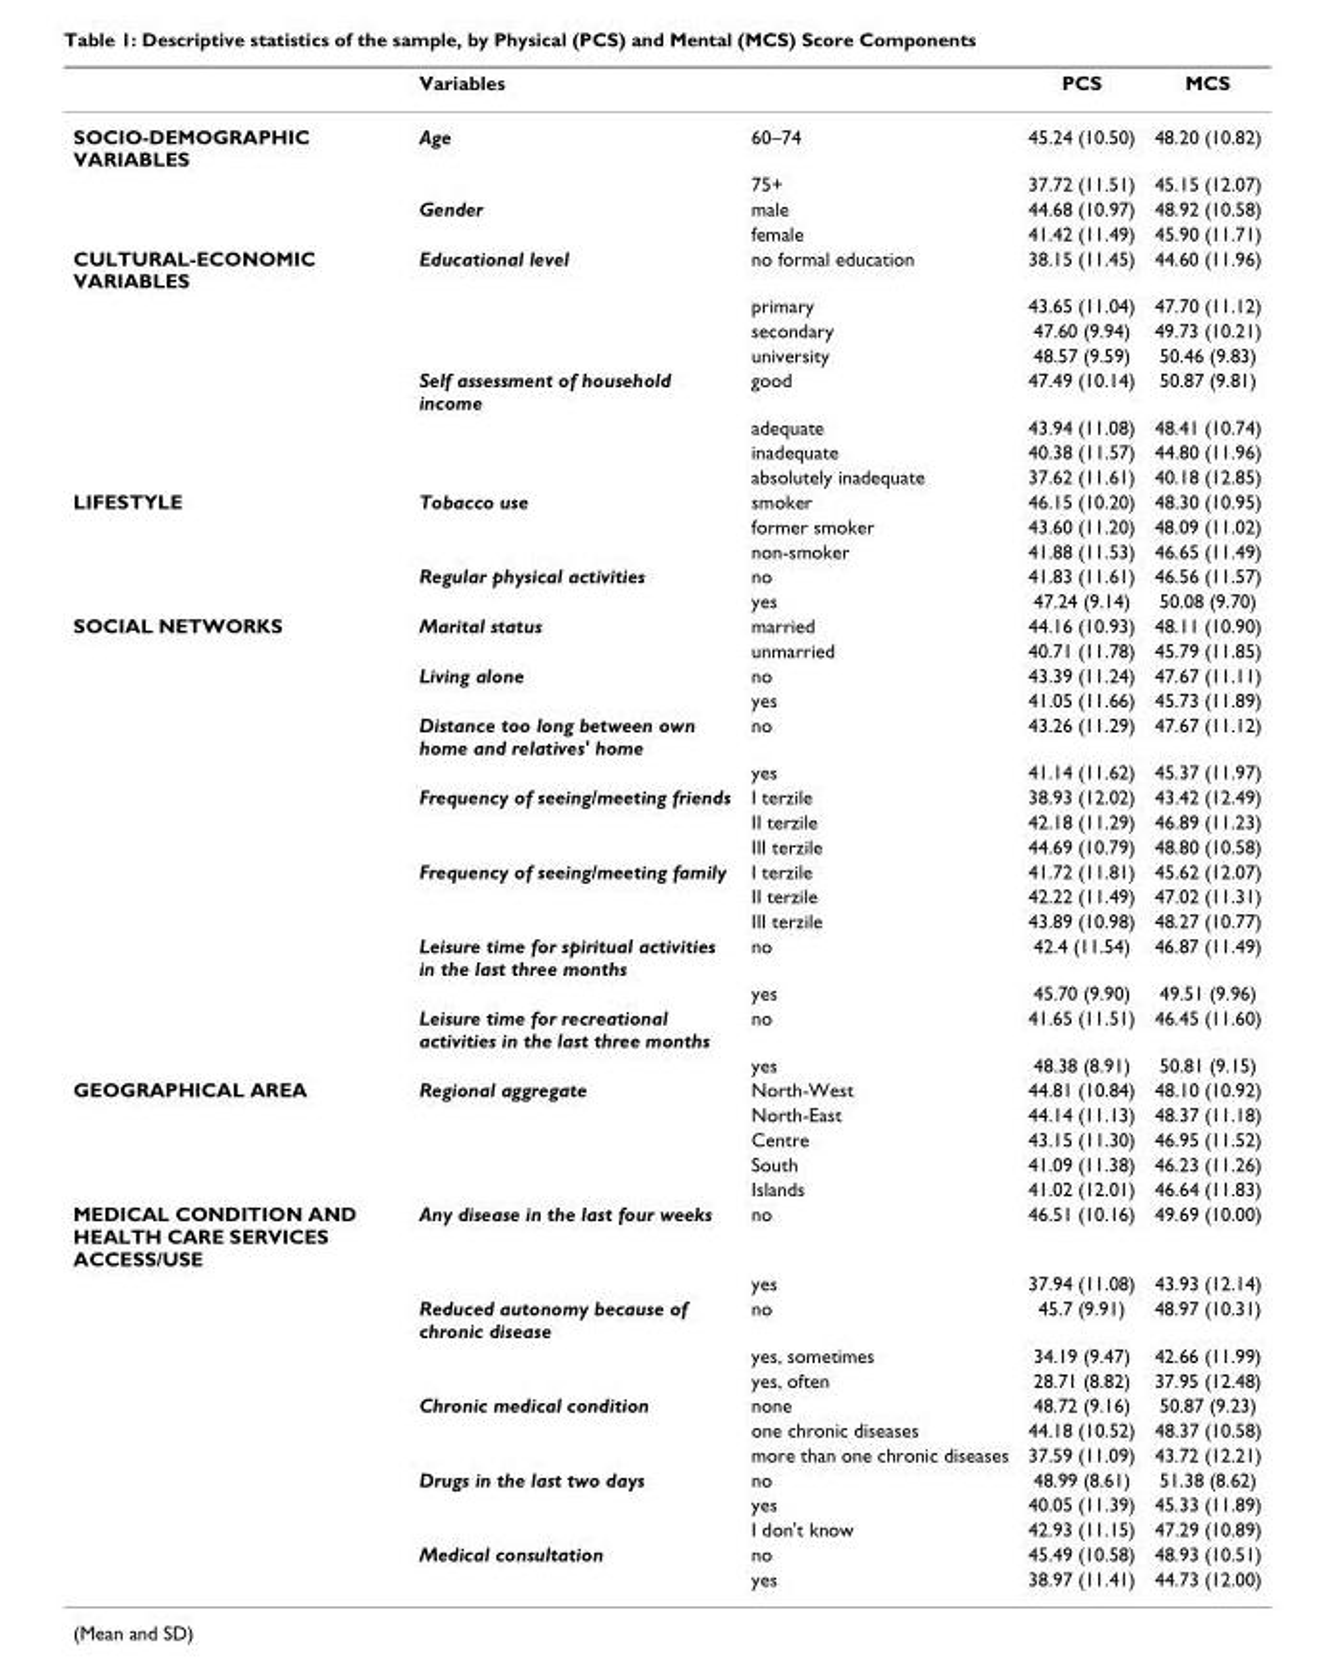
<table><thead><tr><td></td><td>Variables</td><td></td><td>PCS</td><td>MCS</td></tr></thead><tbody><tr><td rowspan="4">SOCIO-DEMOGRAPHIC VARIABLES</td><td>Age</td><td>60–74</td><td>45.24 (10.50)</td><td>48.20 (10.82)</td></tr><tr><td></td><td>75+</td><td>37.72 (11.51)</td><td>45.15 (12.07)</td></tr><tr><td>Gender</td><td>male</td><td>44.68 (10.97)</td><td>48.92 (10.58)</td></tr><tr><td></td><td>female</td><td>41.42 (11.49)</td><td>45.90 (11.71)</td></tr><tr><td rowspan="8">CULTURAL-ECONOMIC VARIABLES</td><td>Educational level</td><td>no formal education</td><td>38.15 (11.45)</td><td>44.60 (11.96)</td></tr><tr><td></td><td>primary</td><td>43.65 (11.04)</td><td>47.70 (11.12)</td></tr><tr><td></td><td>secondary</td><td>47.60 (9.94)</td><td>49.73 (10.21)</td></tr><tr><td></td><td>university</td><td>48.57 (9.59)</td><td>50.46 (9.83)</td></tr><tr><td>Self assessment of household income</td><td>good</td><td>47.49 (10.14)</td><td>50.87 (9.81)</td></tr><tr><td></td><td>adequate</td><td>43.94 (11.08)</td><td>48.41 (10.74)</td></tr><tr><td></td><td>inadequate</td><td>40.38 (11.57)</td><td>44.80 (11.96)</td></tr><tr><td></td><td>absolutely inadequate</td><td>37.62 (11.61)</td><td>40.18 (12.85)</td></tr><tr><td rowspan="5">LIFESTYLE</td><td>Tobacco use</td><td>smoker</td><td>46.15 (10.20)</td><td>48.30 (10.95)</td></tr><tr><td></td><td>former smoker</td><td>43.60 (11.20)</td><td>48.09 (11.02)</td></tr><tr><td></td><td>non-smoker</td><td>41.88 (11.53)</td><td>46.65 (11.49)</td></tr><tr><td>Regular physical activities</td><td>no</td><td>41.83 (11.61)</td><td>46.56 (11.57)</td></tr><tr><td></td><td>yes</td><td>47.24 (9.14)</td><td>50.08 (9.70)</td></tr><tr><td rowspan="16">SOCIAL NETWORKS</td><td>Marital status</td><td>married</td><td>44.16 (10.93)</td><td>48.11 (10.90)</td></tr><tr><td></td><td>unmarried</td><td>40.71 (11.78)</td><td>45.79 (11.85)</td></tr><tr><td>Living alone</td><td>no</td><td>43.39 (11.24)</td><td>47.67 (11.11)</td></tr><tr><td></td><td>yes</td><td>41.05 (11.66)</td><td>45.73 (11.89)</td></tr><tr><td>Distance too long between own home and relatives&#x27; home</td><td>no</td><td>43.26 (11.29)</td><td>47.67 (11.12)</td></tr><tr><td></td><td>yes</td><td>41.14 (11.62)</td><td>45.37 (11.97)</td></tr><tr><td>Frequency of seeing/meeting friends</td><td>I terzile</td><td>38.93 (12.02)</td><td>43.42 (12.49)</td></tr><tr><td></td><td>II terzile</td><td>42.18 (11.29)</td><td>46.89 (11.23)</td></tr><tr><td></td><td>III terzile</td><td>44.69 (10.79)</td><td>48.80 (10.58)</td></tr><tr><td>Frequency of seeing/meeting family</td><td>I terzile</td><td>41.72 (11.81)</td><td>45.62 (12.07)</td></tr><tr><td></td><td>II terzile</td><td>42.22 (11.49)</td><td>47.02 (11.31)</td></tr><tr><td></td><td>III terzile</td><td>43.89 (10.98)</td><td>48.27 (10.77)</td></tr><tr><td>Leisure time for spiritual activities in the last three months</td><td>no</td><td>42.4 (11.54)</td><td>46.87 (11.49)</td></tr><tr><td></td><td>yes</td><td>45.70 (9.90)</td><td>49.51 (9.96)</td></tr><tr><td>Leisure time for recreational activities in the last three months</td><td>no</td><td>41.65 (11.51)</td><td>46.45 (11.60)</td></tr><tr><td></td><td>yes</td><td>48.38 (8.91)</td><td>50.81 (9.15)</td></tr><tr><td rowspan="5">GEOGRAPHICAL AREA</td><td>Regional aggregate</td><td>North-West</td><td>44.81 (10.84)</td><td>48.10 (10.92)</td></tr><tr><td></td><td>North-East</td><td>44.14 (11.13)</td><td>48.37 (11.18)</td></tr><tr><td></td><td>Centre</td><td>43.15 (11.30)</td><td>46.95 (11.52)</td></tr><tr><td></td><td>South</td><td>41.09 (11.38)</td><td>46.23 (11.26)</td></tr><tr><td></td><td>Islands</td><td>41.02 (12.01)</td><td>46.64 (11.83)</td></tr><tr><td rowspan="13">MEDICAL CONDITION AND HEALTH CARE SERVICES ACCESS/USE</td><td>Any disease in the last four weeks</td><td>no</td><td>46.51 (10.16)</td><td>49.69 (10.00)</td></tr><tr><td></td><td>yes</td><td>37.94 (11.08)</td><td>43.93 (12.14)</td></tr><tr><td>Reduced autonomy because of chronic disease</td><td>no</td><td>45.7 (9.91)</td><td>48.97 (10.31)</td></tr><tr><td></td><td>yes, sometimes</td><td>34.19 (9.47)</td><td>42.66 (11.99)</td></tr><tr><td></td><td>yes, often</td><td>28.71 (8.82)</td><td>37.95 (12.48)</td></tr><tr><td>Chronic medical condition</td><td>none</td><td>48.72 (9.16)</td><td>50.87 (9.23)</td></tr><tr><td></td><td>one chronic diseases</td><td>44.18 (10.52)</td><td>48.37 (10.58)</td></tr><tr><td></td><td>more than one chronic diseases</td><td>37.59 (11.09)</td><td>43.72 (12.21)</td></tr><tr><td>Drugs in the last two days</td><td>no</td><td>48.99 (8.61)</td><td>51.38 (8.62)</td></tr><tr><td></td><td>yes</td><td>40.05 (11.39)</td><td>45.33 (11.89)</td></tr><tr><td></td><td>I don&#x27;t know</td><td>42.93 (11.15)</td><td>47.29 (10.89)</td></tr><tr><td>Medical consultation</td><td>no</td><td>45.49 (10.58)</td><td>48.93 (10.51)</td></tr><tr><td></td><td>yes</td><td>38.97 (11.41)</td><td>44.73 (12.00)</td></tr></tbody></table>